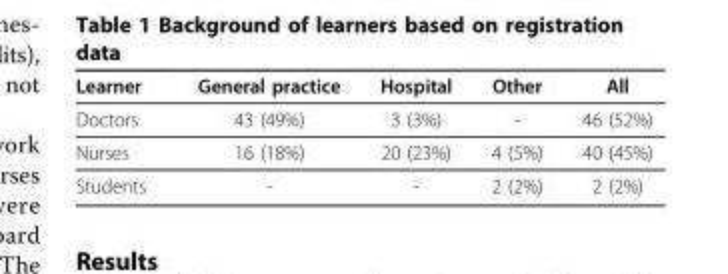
<table><thead><tr><td>Learner</td><td>General practice</td><td>Hospital</td><td>Other</td><td>All</td></tr></thead><tbody><tr><td>Doctors</td><td>43 (49%)</td><td>3 (3%)</td><td>-</td><td>46 (52%)</td></tr><tr><td>Nurses</td><td>16 (18%)</td><td>20 (23%)</td><td>4 (5%)</td><td>40 (45%)</td></tr><tr><td>Students</td><td>-</td><td>-</td><td>2 (2%)</td><td>2 (2%)</td></tr></tbody></table>